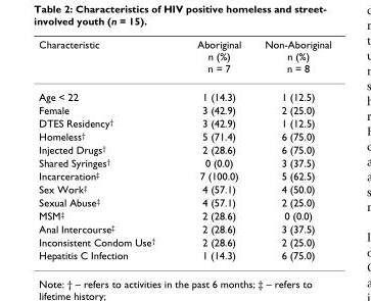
<table><thead><tr><td>Characteristic</td><td>Aboriginal n (%) n = 7</td><td>Non-Aboriginal n (%) n = 8</td></tr></thead><tbody><tr><td>Age &lt; 22</td><td>1 (14.3)</td><td>1 (12.5)</td></tr><tr><td>Female</td><td>3 (42.9)</td><td>2 (25.0)</td></tr><tr><td>DTES Residency<sup>†</sup></td><td>3 (42.9)</td><td>1 (12.5)</td></tr><tr><td>Homeless<sup>†</sup></td><td>5 (71.4)</td><td>6 (75.0)</td></tr><tr><td>Injected Drugs<sup>†</sup></td><td>2 (28.6)</td><td>6 (75.0)</td></tr><tr><td>Shared Syringes<sup>†</sup></td><td>0 (0.0)</td><td>3 (37.5)</td></tr><tr><td>Incarceration<sup>‡</sup></td><td>7 (100.0)</td><td>5 (62.5)</td></tr><tr><td>Sex Work<sup>‡</sup></td><td>4 (57.1)</td><td>4 (50.0)</td></tr><tr><td>Sexual Abuse<sup>‡</sup></td><td>4 (57.1)</td><td>2 (25.0)</td></tr><tr><td>MSM<sup>‡</sup></td><td>2 (28.6)</td><td>0 (0.0)</td></tr><tr><td>Anal Intercourse<sup>‡</sup></td><td>2 (28.6)</td><td>3 (37.5)</td></tr><tr><td>Inconsistent Condom Use<sup>†</sup></td><td>2 (28.6)</td><td>2 (25.0)</td></tr><tr><td>Hepatitis C Infection</td><td>1 (14.3)</td><td>6 (75.0)</td></tr></tbody></table>